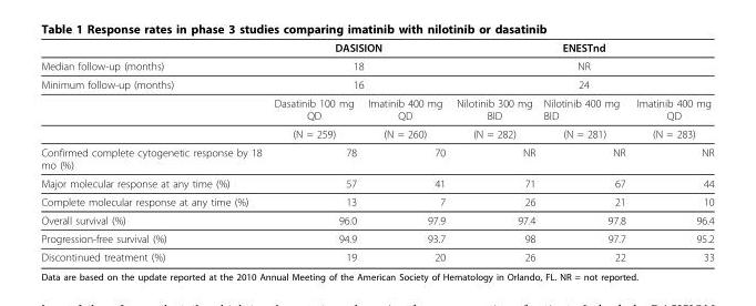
<table><thead><tr><td rowspan="4">Median follow-up (months) Minimum follow-up (months)</td><td rowspan="3" colspan="2">DASISION 18 16</td><td rowspan="3" colspan="3">ENESTnd NR 24</td></tr><tr></tr><tr></tr><tr><td>Dasatinib 100 mg QD</td><td>Imatinib 400 mg QD</td><td>Nilotinib 300 mg BID</td><td>Nilotinib 400 mg BID</td><td>Imatinib 400 mg QD</td></tr></thead><tbody><tr><td></td><td>(N = 259)</td><td>(N = 260)</td><td>(N = 282)</td><td>(N = 281)</td><td>(N = 283)</td></tr><tr><td>Confirmed complete cytogenetic response by 18 mo (%)</td><td>78</td><td>70</td><td>NR</td><td>NR</td><td>NR</td></tr><tr><td>Major molecular response at any time (%)</td><td>57</td><td>41</td><td>71</td><td>67</td><td>44</td></tr><tr><td>Complete molecular response at any time (%)</td><td>13</td><td>7</td><td>26</td><td>21</td><td>10</td></tr><tr><td>Overall survival (%)</td><td>96.0</td><td>97.9</td><td>97.4</td><td>97.8</td><td>96.4</td></tr><tr><td>Progression-free survival (%)</td><td>94.9</td><td>93.7</td><td>98</td><td>97.7</td><td>95.2</td></tr><tr><td>Discontinued treatment (%)</td><td>19</td><td>20</td><td>26</td><td>22</td><td>33</td></tr></tbody></table>